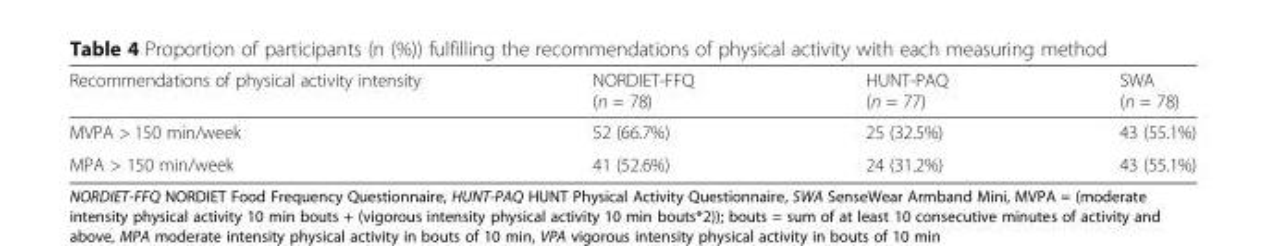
<table><thead><tr><td>Recommendations of physical activity intensity</td><td>NORDIET-FFQ (n = 78)</td><td>HUNT-PAQ (n = 77)</td><td>SWA (n = 78)</td></tr></thead><tbody><tr><td>MVPA &gt; 150 min/week</td><td>52 (66.7%)</td><td>25 (32.5%)</td><td>43 (55.1%)</td></tr><tr><td>MPA &gt; 150 min/week</td><td>41 (52.6%)</td><td>24 (31.2%)</td><td>43 (55.1%)</td></tr></tbody></table>